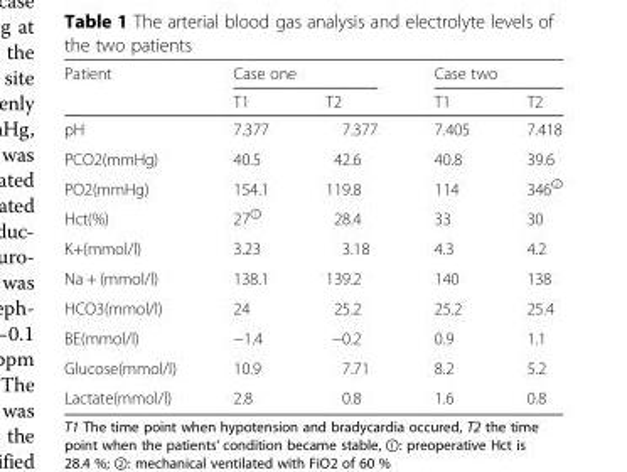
<table><thead><tr><td rowspan="2">Patient</td><td colspan="2">Case one</td><td colspan="2">Case two</td></tr><tr><td>T1</td><td>T2</td><td>T1</td><td>T2</td></tr></thead><tbody><tr><td>pH</td><td>7.377</td><td>7.377</td><td>7.405</td><td>7.418</td></tr><tr><td>PCO2(mmHg)</td><td>40.5</td><td>42.6</td><td>40.8</td><td>39.6</td></tr><tr><td>PO2(mmHg)</td><td>154.1</td><td>119.8</td><td>114</td><td>346<sup>②</sup></td></tr><tr><td>Hct(%)</td><td>27<sup>①</sup></td><td>28.4</td><td>33</td><td>30</td></tr><tr><td>K+(mmol/l)</td><td>3.23</td><td>3.18</td><td>4.3</td><td>4.2</td></tr><tr><td>Na + (mmol/l)</td><td>138.1</td><td>139.2</td><td>140</td><td>138</td></tr><tr><td>HCO3(mmol/l)</td><td>24</td><td>25.2</td><td>25.2</td><td>25.4</td></tr><tr><td>BE(mmol/l)</td><td>−1.4</td><td>−0.2</td><td>0.9</td><td>1.1</td></tr><tr><td>Glucose(mmol/l)</td><td>10.9</td><td>7.71</td><td>8.2</td><td>5.2</td></tr><tr><td>Lactate(mmol/l)</td><td>2.8</td><td>0.8</td><td>1.6</td><td>0.8</td></tr></tbody></table>